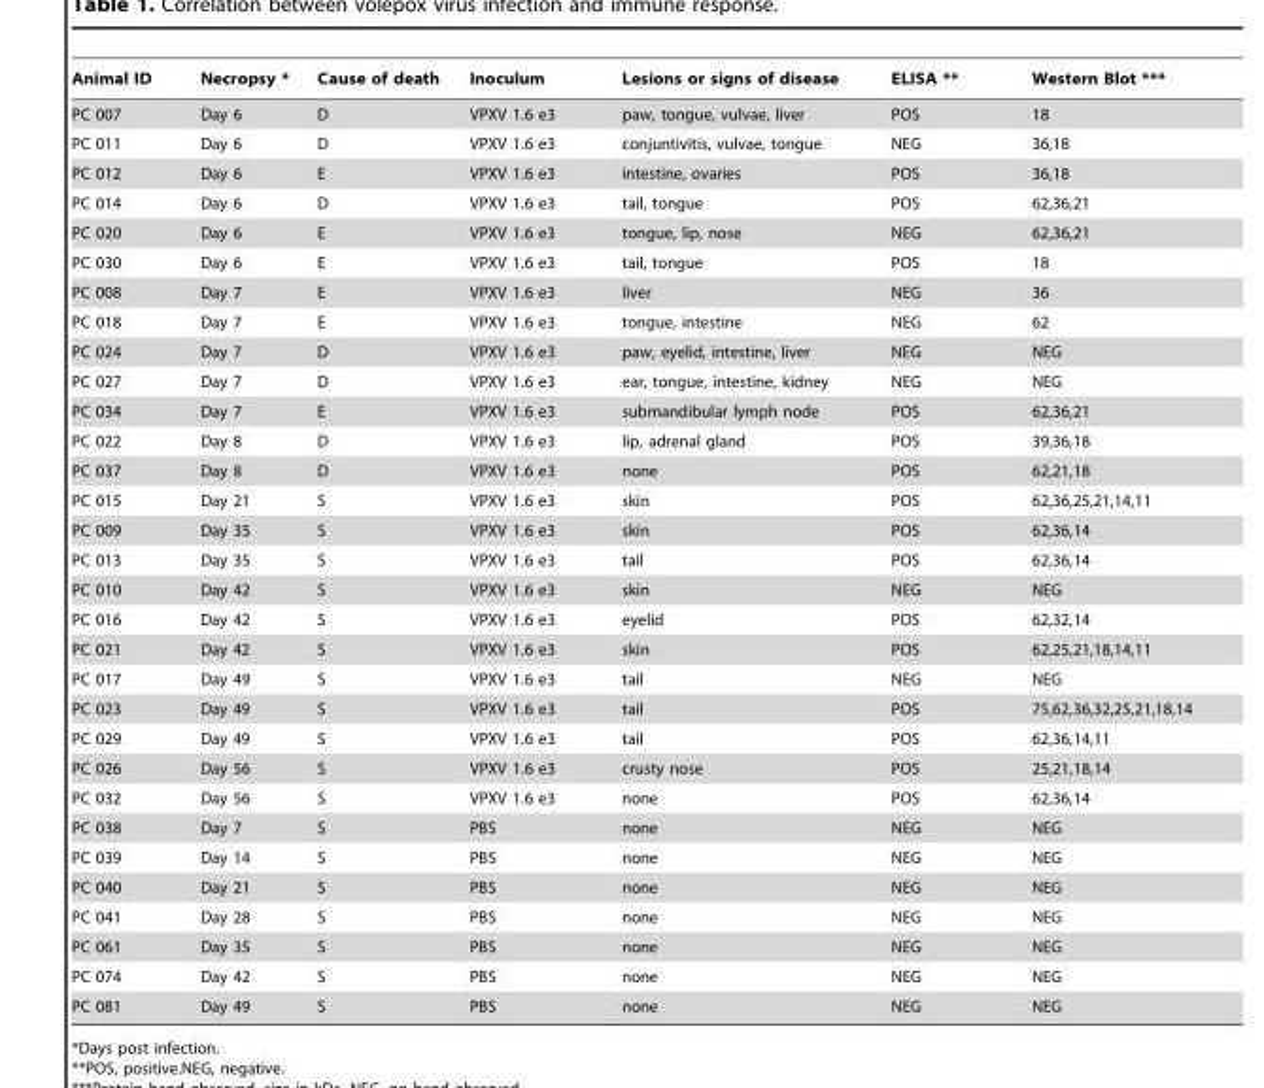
<table><thead><tr><td>Animal ID</td><td>Necropsy *</td><td>Cause of death</td><td>Inoculum</td><td>Lesions or signs of disease</td><td>ELISA **</td><td>Western Blot ***</td></tr></thead><tbody><tr><td>PC 007</td><td>Day 6</td><td>D</td><td>VPXV 1.6 e3</td><td>paw, tongue, vulvae, liver</td><td>POS</td><td>18</td></tr><tr><td>PC 011</td><td>Day 6</td><td>D</td><td>VPXV 1.6 e3</td><td>conjuntivitis, vulvae, tongue</td><td>NEG</td><td>36,18</td></tr><tr><td>PC 012</td><td>Day 6</td><td>E</td><td>VPXV 1.6 e3</td><td>intestine, ovaries</td><td>POS</td><td>36,18</td></tr><tr><td>PC 014</td><td>Day 6</td><td>D</td><td>VPXV 1.6 e3</td><td>tail, tongue</td><td>POS</td><td>62,36,21</td></tr><tr><td>PC 020</td><td>Day 6</td><td>E</td><td>VPXV 1.6 e3</td><td>tongue, lip, nose</td><td>NEG</td><td>62,36,21</td></tr><tr><td>PC 030</td><td>Day 6</td><td>E</td><td>VPXV 1.6 e3</td><td>tail, tongue</td><td>POS</td><td>18</td></tr><tr><td>PC 008</td><td>Day 7</td><td>E</td><td>VPXV 1.6 e3</td><td>liver</td><td>NEG</td><td>36</td></tr><tr><td>PC 018</td><td>Day 7</td><td>E</td><td>VPXV 1.6 e3</td><td>tongue, intestine</td><td>NEG</td><td>62</td></tr><tr><td>PC 024</td><td>Day 7</td><td>D</td><td>VPXV 1.6 e3</td><td>paw, eyelid, intestine, liver</td><td>NEG</td><td>NEG</td></tr><tr><td>PC 027</td><td>Day 7</td><td>D</td><td>VPXV 1.6 e3</td><td>ear, tongue, intestine, kidney</td><td>NEG</td><td>NEG</td></tr><tr><td>PC 034</td><td>Day 7</td><td>E</td><td>VPXV 1.6 e3</td><td>submandibular lymph node</td><td>POS</td><td>62,36,21</td></tr><tr><td>PC 022</td><td>Day 8</td><td>D</td><td>VPXV 1.6 e3</td><td>lip, adrenal gland</td><td>POS</td><td>39,36,18</td></tr><tr><td>PC 037</td><td>Day 8</td><td>D</td><td>VPXV 1.6 e3</td><td>none</td><td>POS</td><td>62,21,18</td></tr><tr><td>PC 015</td><td>Day 21</td><td>S</td><td>VPXV 1.6 e3</td><td>skin</td><td>POS</td><td>62,36,25,21,14,11</td></tr><tr><td>PC 009</td><td>Day 35</td><td>S</td><td>VPXV 1.6 e3</td><td>skin</td><td>POS</td><td>62,36,14</td></tr><tr><td>PC 013</td><td>Day 35</td><td>S</td><td>VPXV 1.6 e3</td><td>tail</td><td>POS</td><td>62,36,14</td></tr><tr><td>PC 010</td><td>Day 42</td><td>S</td><td>VPXV 1.6 e3</td><td>skin</td><td>NEG</td><td>NEG</td></tr><tr><td>PC 016</td><td>Day 42</td><td>S</td><td>VPXV 1.6 e3</td><td>eyelid</td><td>POS</td><td>62,32,14</td></tr><tr><td>PC 021</td><td>Day 42</td><td>S</td><td>VPXV 1.6 e3</td><td>skin</td><td>POS</td><td>62,25,21,18,14,11</td></tr><tr><td>PC 017</td><td>Day 49</td><td>S</td><td>VPXV 1.6 e3</td><td>tail</td><td>NEG</td><td>NEG</td></tr><tr><td>PC 023</td><td>Day 49</td><td>S</td><td>VPXV 1.6 e3</td><td>tail</td><td>POS</td><td>75,62,36,32,25,21,18,14</td></tr><tr><td>PC 029</td><td>Day 49</td><td>S</td><td>VPXV 1.6 e3</td><td>tail</td><td>POS</td><td>62,36,14,11</td></tr><tr><td>PC 026</td><td>Day 56</td><td>S</td><td>VPXV 1.6 e3</td><td>crusty nose</td><td>POS</td><td>25,21,18,14</td></tr><tr><td>PC 032</td><td>Day 56</td><td>S</td><td>VPXV 1.6 e3</td><td>none</td><td>POS</td><td>62,36,14</td></tr><tr><td>PC 038</td><td>Day 7</td><td>S</td><td>PBS</td><td>none</td><td>NEG</td><td>NEG</td></tr><tr><td>PC 039</td><td>Day 14</td><td>S</td><td>PBS</td><td>none</td><td>NEG</td><td>NEG</td></tr><tr><td>PC 040</td><td>Day 21</td><td>S</td><td>PBS</td><td>none</td><td>NEG</td><td>NEG</td></tr><tr><td>PC 041</td><td>Day 28</td><td>S</td><td>PBS</td><td>none</td><td>NEG</td><td>NEG</td></tr><tr><td>PC 061</td><td>Day 35</td><td>S</td><td>PBS</td><td>none</td><td>NEG</td><td>NEG</td></tr><tr><td>PC 074</td><td>Day 42</td><td>S</td><td>PBS</td><td>none</td><td>NEG</td><td>NEG</td></tr><tr><td>PC 081</td><td>Day 49</td><td>S</td><td>PBS</td><td>none</td><td>NEG</td><td>NEG</td></tr></tbody></table>